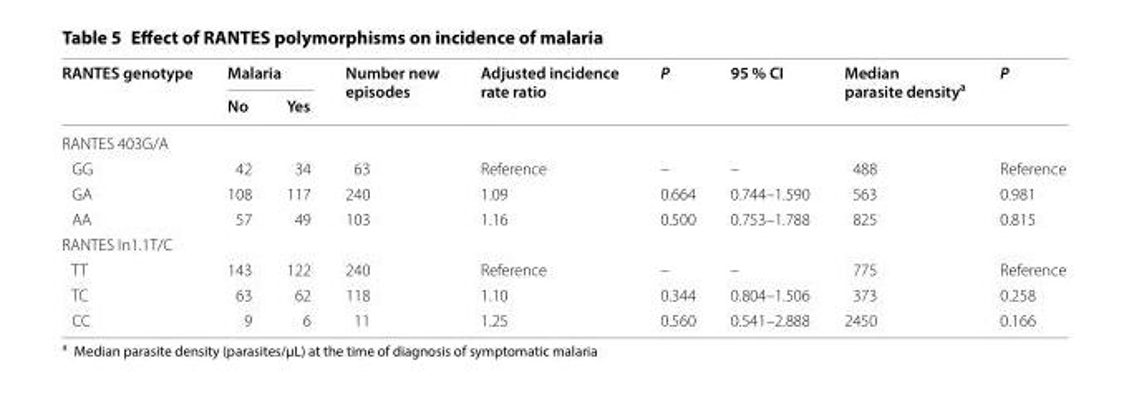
<table><thead><tr><td rowspan="2">RANTES genotype</td><td colspan="2">Malaria</td><td rowspan="2">Number new episodes</td><td rowspan="2">Adjusted incidence rate ratio</td><td rowspan="2">P</td><td rowspan="2">95 % CI</td><td rowspan="2">Median parasite density<sup>a</sup></td><td rowspan="2">P</td></tr><tr><td>No</td><td>Yes</td></tr></thead><tbody><tr><td colspan="9">RANTES 403G/A</td></tr><tr><td>GG</td><td>42</td><td>34</td><td>63</td><td>Reference</td><td>–</td><td>–</td><td>488</td><td>Reference</td></tr><tr><td>GA</td><td>108</td><td>117</td><td>240</td><td>1.09</td><td>0.664</td><td>0.744–1.590</td><td>563</td><td>0.981</td></tr><tr><td>AA</td><td>57</td><td>49</td><td>103</td><td>1.16</td><td>0.500</td><td>0.753–1.788</td><td>825</td><td>0.815</td></tr><tr><td colspan="9">RANTES In1.1T/C</td></tr><tr><td>TT</td><td>143</td><td>122</td><td>240</td><td>Reference</td><td>–</td><td>–</td><td>775</td><td>Reference</td></tr><tr><td>TC</td><td>63</td><td>62</td><td>118</td><td>1.10</td><td>0.344</td><td>0.804–1.506</td><td>373</td><td>0.258</td></tr><tr><td>CC</td><td>9</td><td>6</td><td>11</td><td>1.25</td><td>0.560</td><td>0.541–2.888</td><td>2450</td><td>0.166</td></tr></tbody></table>